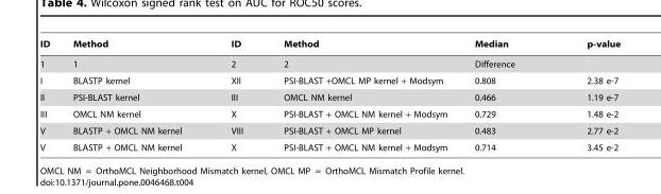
<table><thead><tr><td>ID</td><td>Method</td><td>ID</td><td>Method</td><td>Median</td><td>p-value</td></tr></thead><tbody><tr><td>1</td><td>1</td><td>2</td><td>2</td><td>Difference</td><td></td></tr><tr><td>I</td><td>BLASTP kernel</td><td>XII</td><td>PSI-BLAST +OMCL MP kernel + Modsym</td><td>0.808</td><td>2.38 e-7</td></tr><tr><td>II</td><td>PSI-BLAST kernel</td><td>III</td><td>OMCL NM kernel</td><td>0.466</td><td>1.19 e-7</td></tr><tr><td>III</td><td>OMCL NM kernel</td><td>X</td><td>PSI-BLAST + OMCL NM kernel + Modsym</td><td>0.729</td><td>1.48 e-2</td></tr><tr><td>V</td><td>BLASTP + OMCL NM kernel</td><td>VIII</td><td>PSI-BLAST + OMCL MP kernel</td><td>0.483</td><td>2.77 e-2</td></tr><tr><td>V</td><td>BLASTP + OMCL NM kernel</td><td>X</td><td>PSI-BLAST + OMCL NM kernel + Modsym</td><td>0.714</td><td>3.45 e-2</td></tr></tbody></table>